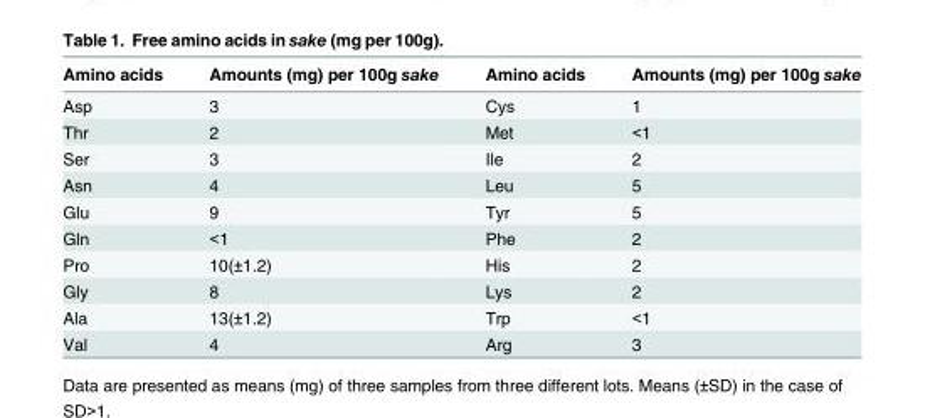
<table><thead><tr><td>Amino acids</td><td>Amounts (mg) per 100g sake</td><td>Amino acids</td><td>Amounts (mg) per 100g sake</td></tr></thead><tbody><tr><td>Asp</td><td>3</td><td>Cys</td><td>1</td></tr><tr><td>Thr</td><td>2</td><td>Met</td><td>&lt;1</td></tr><tr><td>Ser</td><td>3</td><td>Ile</td><td>2</td></tr><tr><td>Asn</td><td>4</td><td>Leu</td><td>5</td></tr><tr><td>Glu</td><td>9</td><td>Tyr</td><td>5</td></tr><tr><td>Gln</td><td>&lt;1</td><td>Phe</td><td>2</td></tr><tr><td>Pro</td><td>10(±1.2)</td><td>His</td><td>2</td></tr><tr><td>Gly</td><td>8</td><td>Lys</td><td>2</td></tr><tr><td>Ala</td><td>13(±1.2)</td><td>Trp</td><td>&lt;1</td></tr><tr><td>Val</td><td>4</td><td>Arg</td><td>3</td></tr></tbody></table>